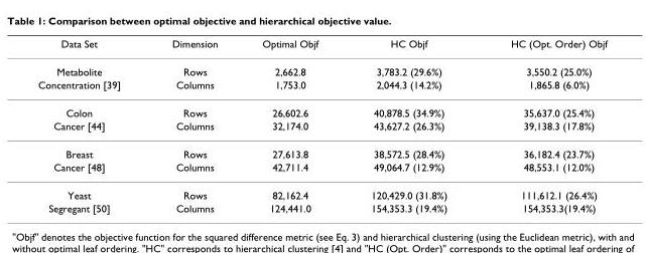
<table><thead><tr><td>Data Set</td><td>Dimension</td><td>Optimal Objf</td><td>HC Objf</td><td>HC (Opt. Order) Objf</td></tr></thead><tbody><tr><td>Metabolite</td><td>Rows</td><td>2,662.8</td><td>3,783.2 (29.6%)</td><td>3,550.2 (25.0%)</td></tr><tr><td>Concentration [39]</td><td>Columns</td><td>1,753.0</td><td>2,044.3 (14.2%)</td><td>1,865.8 (6.0%)</td></tr><tr><td>Colon</td><td>Rows</td><td>26,602.6</td><td>40,878.5 (34.9%)</td><td>35,637.0 (25.4%)</td></tr><tr><td>Cancer [44]</td><td>Columns</td><td>32,174.0</td><td>43,627.2 (26.3%)</td><td>39,138.3 (17.8%)</td></tr><tr><td>Breast</td><td>Rows</td><td>27,613.8</td><td>38,572.5 (28.4%)</td><td>36,182.4 (23.7%)</td></tr><tr><td>Cancer [48]</td><td>Columns</td><td>42,711.4</td><td>49,064.7 (12.9%)</td><td>48,553.1 (12.0%)</td></tr><tr><td>Yeast</td><td>Rows</td><td>82,162.4</td><td>120,429.0 (31.8%)</td><td>111,612.1 (26.4%)</td></tr><tr><td>Segregant [50]</td><td>Columns</td><td>124,441.0</td><td>154,353.3 (19.4%)</td><td>154,353.3(19.4%)</td></tr></tbody></table>